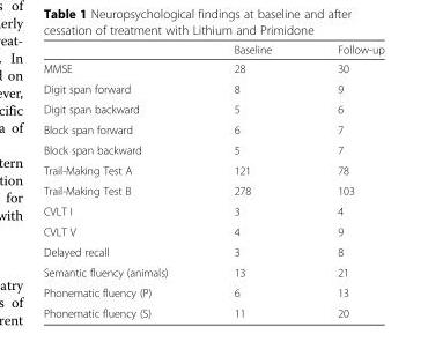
<table><thead><tr><td></td><td>Baseline</td><td>Follow-up</td></tr></thead><tbody><tr><td>MMSE</td><td>28</td><td>30</td></tr><tr><td>Digit span forward</td><td>8</td><td>9</td></tr><tr><td>Digit span backward</td><td>5</td><td>6</td></tr><tr><td>Block span forward</td><td>6</td><td>7</td></tr><tr><td>Block span backward</td><td>5</td><td>7</td></tr><tr><td>Trail-Making Test A</td><td>121</td><td>78</td></tr><tr><td>Trail-Making Test B</td><td>278</td><td>103</td></tr><tr><td>CVLT I</td><td>3</td><td>4</td></tr><tr><td>CVLT V</td><td>4</td><td>9</td></tr><tr><td>Delayed recall</td><td>3</td><td>8</td></tr><tr><td>Semantic fluency (animals)</td><td>13</td><td>21</td></tr><tr><td>Phonematic fluency (P)</td><td>6</td><td>13</td></tr><tr><td>Phonematic fluency (S)</td><td>11</td><td>20</td></tr></tbody></table>